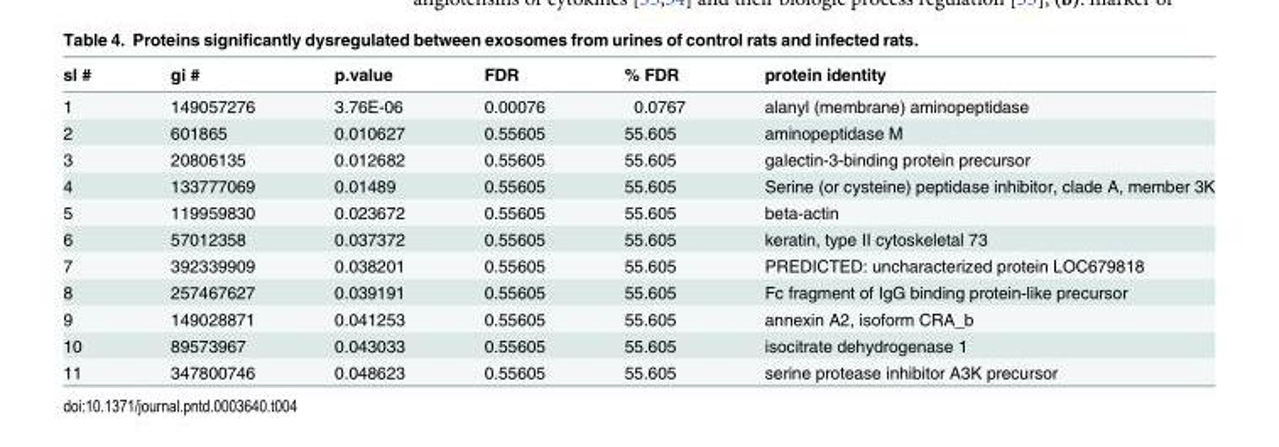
<table><thead><tr><td>sl #</td><td>gi #</td><td>p.value</td><td>FDR</td><td>% FDR</td><td>protein identity</td></tr></thead><tbody><tr><td>1</td><td>149057276</td><td>3.76E-06</td><td>0.00076</td><td>0.0767</td><td>alanyl (membrane) aminopeptidase</td></tr><tr><td>2</td><td>601865</td><td>0.010627</td><td>0.55605</td><td>55.605</td><td>aminopeptidase M</td></tr><tr><td>3</td><td>20806135</td><td>0.012682</td><td>0.55605</td><td>55.605</td><td>galectin-3-binding protein precursor</td></tr><tr><td>4</td><td>133777069</td><td>0.01489</td><td>0.55605</td><td>55.605</td><td>Serine (or cysteine) peptidase inhibitor, clade A, member 3K</td></tr><tr><td>5</td><td>119959830</td><td>0.023672</td><td>0.55605</td><td>55.605</td><td>beta-actin</td></tr><tr><td>6</td><td>57012358</td><td>0.037372</td><td>0.55605</td><td>55.605</td><td>keratin, type II cytoskeletal 73</td></tr><tr><td>7</td><td>392339909</td><td>0.038201</td><td>0.55605</td><td>55.605</td><td>PREDICTED: uncharacterized protein LOC679818</td></tr><tr><td>8</td><td>257467627</td><td>0.039191</td><td>0.55605</td><td>55.605</td><td>Fc fragment of IgG binding protein-like precursor</td></tr><tr><td>9</td><td>149028871</td><td>0.041253</td><td>0.55605</td><td>55.605</td><td>annexin A2, isoform CRA_b</td></tr><tr><td>10</td><td>89573967</td><td>0.043033</td><td>0.55605</td><td>55.605</td><td>isocitrate dehydrogenase 1</td></tr><tr><td>11</td><td>347800746</td><td>0.048623</td><td>0.55605</td><td>55.605</td><td>serine protease inhibitor A3K precursor</td></tr></tbody></table>